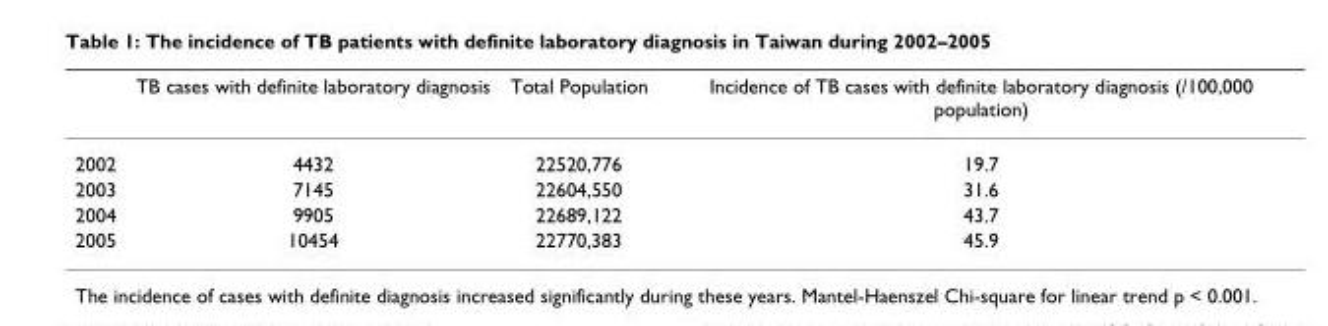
<table><thead><tr><td></td><td>TB cases with definite laboratory diagnosis</td><td>Total Population</td><td>Incidence of TB cases with definite laboratory diagnosis (/100,000 population)</td></tr></thead><tbody><tr><td>2002</td><td>4432</td><td>22520,776</td><td>19.7</td></tr><tr><td>2003</td><td>7145</td><td>22604,550</td><td>31.6</td></tr><tr><td>2004</td><td>9905</td><td>22689,122</td><td>43.7</td></tr><tr><td>2005</td><td>10454</td><td>22770,383</td><td>45.9</td></tr></tbody></table>